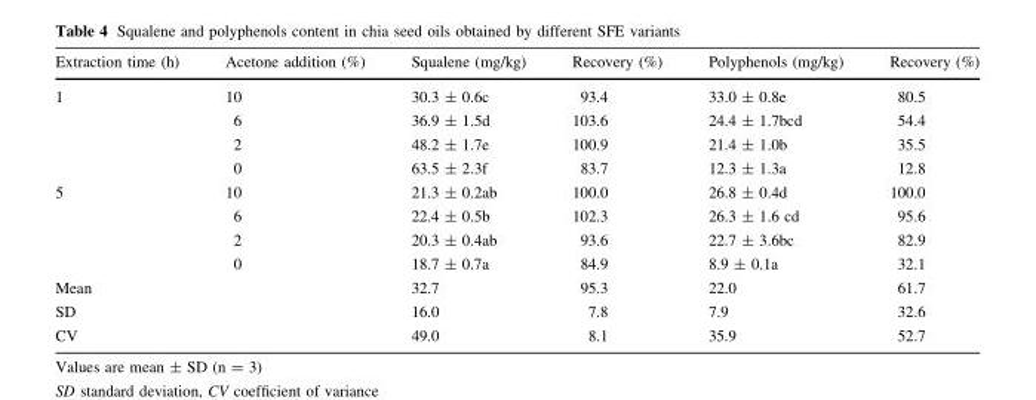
<table><thead><tr><td>Extraction time (h)</td><td>Acetone addition (%)</td><td>Squalene (mg/kg)</td><td>Recovery (%)</td><td>Polyphenols (mg/kg)</td><td>Recovery (%)</td></tr></thead><tbody><tr><td rowspan="4">1</td><td>10</td><td>30.3 ± 0.6c</td><td>93.4</td><td>33.0 ± 0.8e</td><td>80.5</td></tr><tr><td>6</td><td>36.9 ± 1.5d</td><td>103.6</td><td>24.4 ± 1.7bcd</td><td>54.4</td></tr><tr><td>2</td><td>48.2 ± 1.7e</td><td>100.9</td><td>21.4 ± 1.0b</td><td>35.5</td></tr><tr><td>0</td><td>63.5 ± 2.3f</td><td>83.7</td><td>12.3 ± 1.3a</td><td>12.8</td></tr><tr><td rowspan="4">5</td><td>10</td><td>21.3 ± 0.2ab</td><td>100.0</td><td>26.8 ± 0.4d</td><td>100.0</td></tr><tr><td>6</td><td>22.4 ± 0.5b</td><td>102.3</td><td>26.3 ± 1.6 cd</td><td>95.6</td></tr><tr><td>2</td><td>20.3 ± 0.4ab</td><td>93.6</td><td>22.7 ± 3.6bc</td><td>82.9</td></tr><tr><td>0</td><td>18.7 ± 0.7a</td><td>84.9</td><td>8.9 ± 0.1a</td><td>32.1</td></tr><tr><td colspan="2">Mean</td><td>32.7</td><td>95.3</td><td>22.0</td><td>61.7</td></tr><tr><td colspan="2">SD</td><td>16.0</td><td>7.8</td><td>7.9</td><td>32.6</td></tr><tr><td colspan="2">CV</td><td>49.0</td><td>8.1</td><td>35.9</td><td>52.7</td></tr></tbody></table>